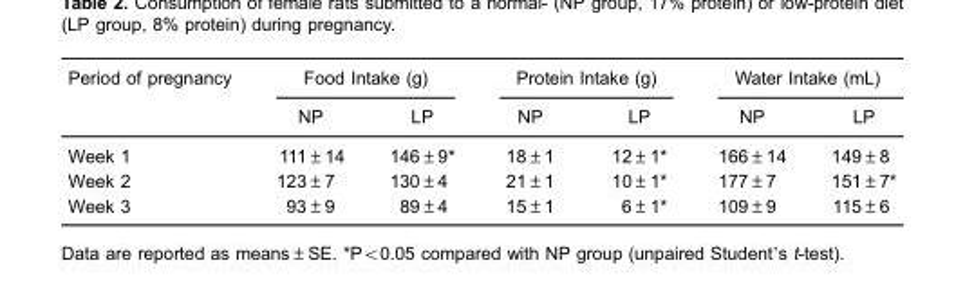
<table><thead><tr><td rowspan="2">Period of pregnancy</td><td colspan="2">Food Intake (g)</td><td colspan="2">Protein Intake (g)</td><td colspan="2">Water Intake (mL)</td></tr><tr><td>NP</td><td>LP</td><td>NP</td><td>LP</td><td>NP</td><td>LP</td></tr></thead><tbody><tr><td>Week 1</td><td>111±14</td><td>146±9*</td><td>18±1</td><td>12±1*</td><td>166±14</td><td>149±8</td></tr><tr><td>Week 2</td><td>123±7</td><td>130±4</td><td>21±1</td><td>10±1*</td><td>177±7</td><td>151±7*</td></tr><tr><td>Week 3</td><td>93±9</td><td>89±4</td><td>15±1</td><td>6±1*</td><td>109±9</td><td>115±6</td></tr></tbody></table>